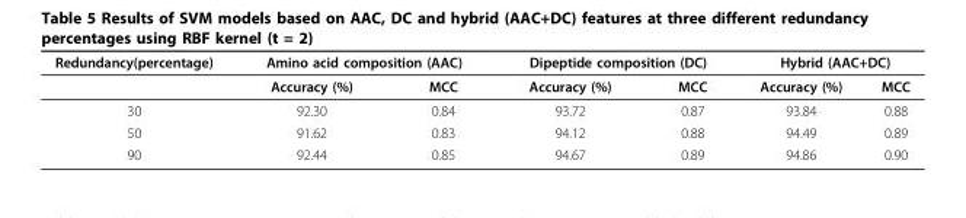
<table><thead><tr><td rowspan="2">Redundancy(percentage)</td><td colspan="2">Amino acid composition (AAC)</td><td colspan="2">Dipeptide composition (DC)</td><td colspan="2">Hybrid (AAC+DC)</td></tr><tr><td>Accuracy (%)</td><td>MCC</td><td>Accuracy (%)</td><td>MCC</td><td>Accuracy (%)</td><td>MCC</td></tr></thead><tbody><tr><td>30</td><td>92.30</td><td>0.84</td><td>93.72</td><td>0.87</td><td>93.84</td><td>0.88</td></tr><tr><td>50</td><td>91.62</td><td>0.83</td><td>94.12</td><td>0.88</td><td>94.49</td><td>0.89</td></tr><tr><td>90</td><td>92.44</td><td>0.85</td><td>94.67</td><td>0.89</td><td>94.86</td><td>0.90</td></tr></tbody></table>